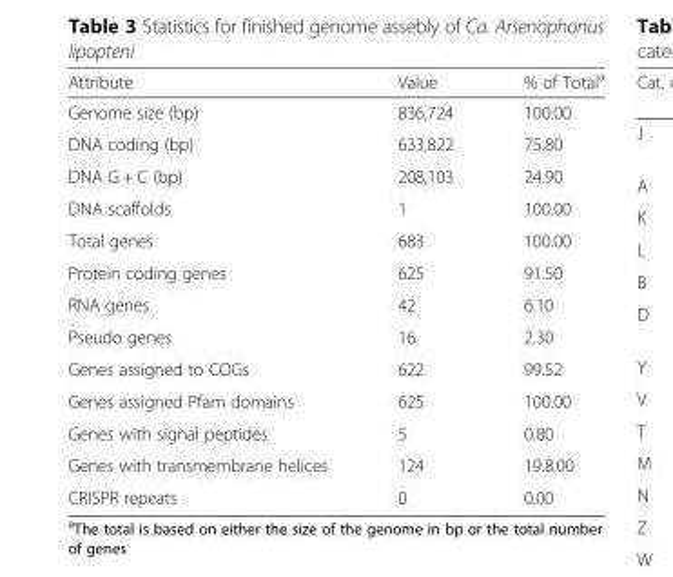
<table><thead><tr><td>Attribute</td><td>Value</td><td>% of Total<sup>a</sup></td></tr></thead><tbody><tr><td>Genome size (bp)</td><td>836,724</td><td>100.00</td></tr><tr><td>DNA coding (bp)</td><td>633,822</td><td>75.80</td></tr><tr><td>DNA G + C (bp)</td><td>208,103</td><td>24.90</td></tr><tr><td>DNA scaffolds</td><td>1</td><td>100.00</td></tr><tr><td>Total genes</td><td>683</td><td>100.00</td></tr><tr><td>Protein coding genes</td><td>625</td><td>91.50</td></tr><tr><td>RNA genes</td><td>42</td><td>6.10</td></tr><tr><td>Pseudo genes</td><td>16</td><td>2.30</td></tr><tr><td>Genes assigned to COGs</td><td>622</td><td>99.52</td></tr><tr><td>Genes assigned Pfam domains</td><td>625</td><td>100.00</td></tr><tr><td>Genes with signal peptides</td><td>5</td><td>0.80</td></tr><tr><td>Genes with transmembrane helices</td><td>124</td><td>19.8.00</td></tr><tr><td>CRISPR repeats</td><td>0</td><td>0.00</td></tr></tbody></table>